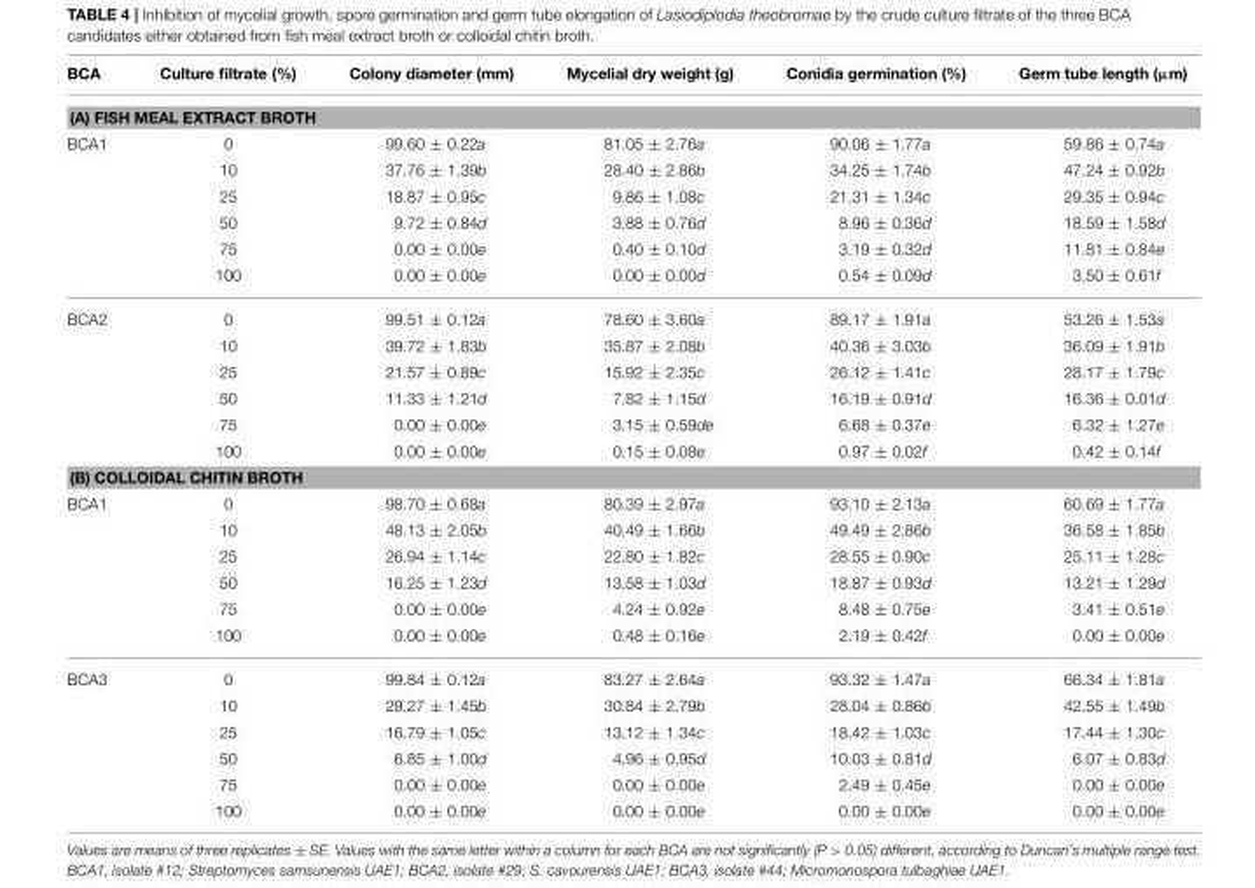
<table><thead><tr><td>BCA</td><td>Culture filtrate (%)</td><td>Colony diameter (mm)</td><td>Mycelial dry weight (g)</td><td>Conidia germination (%)</td><td>Germ tube length (µm)</td></tr></thead><tbody><tr><td colspan="6">(A) FISH MEAL EXTRACT BROTH</td></tr><tr><td rowspan="6">BCA1</td><td>0</td><td>99.60 ± 0.22a</td><td>81.05 ± 2.76a</td><td>90.06 ± 1.77a</td><td>59.86 ± 0.74a</td></tr><tr><td>10</td><td>37.76 ± 1.39b</td><td>28.40 ± 2.86b</td><td>34.25 ± 1.74b</td><td>47.24 ± 0.92b</td></tr><tr><td>25</td><td>18.87 ± 0.95c</td><td>9.86 ± 1.08c</td><td>21.31 ± 1.34c</td><td>29.35 ± 0.94c</td></tr><tr><td>50</td><td>9.72 ± 0.84d</td><td>3.88 ± 0.76d</td><td>8.96 ± 0.36d</td><td>18.59 ± 1.58d</td></tr><tr><td>75</td><td>0.00 ± 0.00e</td><td>0.40 ± 0.10d</td><td>3.19 ± 0.32d</td><td>11.81 ± 0.84e</td></tr><tr><td>100</td><td>0.00 ± 0.00e</td><td>0.00 ± 0.00d</td><td>0.54 ± 0.09d</td><td>3.50 ± 0.61f</td></tr><tr><td rowspan="6">BCA2</td><td>0</td><td>99.51 ± 0.12a</td><td>78.60 ± 3.60a</td><td>89.17 ± 1.91a</td><td>53.26 ± 1.53a</td></tr><tr><td>10</td><td>39.72 ± 1.83b</td><td>35.87 ± 2.08b</td><td>40.36 ± 3.03b</td><td>36.09 ± 1.91b</td></tr><tr><td>25</td><td>21.57 ± 0.89c</td><td>15.92 ± 2.35c</td><td>26.12 ± 1.41c</td><td>28.17 ± 1.79c</td></tr><tr><td>50</td><td>11.33 ± 1.21d</td><td>7.82 ± 1.15d</td><td>16.19 ± 0.91d</td><td>16.36 ± 0.01d</td></tr><tr><td>75</td><td>0.00 ± 0.00e</td><td>3.15 ± 0.59de</td><td>6.68 ± 0.37e</td><td>6.32 ± 1.27e</td></tr><tr><td>100</td><td>0.00 ± 0.00e</td><td>0.15 ± 0.08e</td><td>0.97 ± 0.02f</td><td>0.42 ± 0.14f</td></tr><tr><td colspan="6">(B) COLLOIDAL CHITIN BROTH</td></tr><tr><td rowspan="6">BCA1</td><td>0</td><td>98.70 ± 0.68a</td><td>80.39 ± 2.97a</td><td>93.10 ± 2.13a</td><td>60.69 ± 1.77a</td></tr><tr><td>10</td><td>48.13 ± 2.05b</td><td>40.49 ± 1.66b</td><td>49.49 ± 2.86b</td><td>36.58 ± 1.85b</td></tr><tr><td>25</td><td>26.94 ± 1.14c</td><td>22.80 ± 1.82c</td><td>28.55 ± 0.90c</td><td>25.11 ± 1.28c</td></tr><tr><td>50</td><td>16.25 ± 1.23d</td><td>13.58 ± 1.03d</td><td>18.87 ± 0.93d</td><td>13.21 ± 1.29d</td></tr><tr><td>75</td><td>0.00 ± 0.00e</td><td>4.24 ± 0.92e</td><td>8.48 ± 0.75e</td><td>3.41 ± 0.51e</td></tr><tr><td>100</td><td>0.00 ± 0.00e</td><td>0.48 ± 0.16e</td><td>2.19 ± 0.42f</td><td>0.00 ± 0.00e</td></tr><tr><td rowspan="6">BCA3</td><td>0</td><td>99.84 ± 0.12a</td><td>83.27 ± 2.64a</td><td>93.32 ± 1.47a</td><td>66.34 ± 1.81a</td></tr><tr><td>10</td><td>29.27 ± 1.45b</td><td>30.84 ± 2.79b</td><td>28.04 ± 0.86b</td><td>42.55 ± 1.49b</td></tr><tr><td>25</td><td>16.79 ± 1.05c</td><td>13.12 ± 1.34c</td><td>18.42 ± 1.03c</td><td>17.44 ± 1.30c</td></tr><tr><td>50</td><td>6.85 ± 1.00d</td><td>4.96 ± 0.95d</td><td>10.03 ± 0.81d</td><td>6.07 ± 0.83d</td></tr><tr><td>75</td><td>0.00 ± 0.00e</td><td>0.00 ± 0.00e</td><td>2.49 ± 0.45e</td><td>0.00 ± 0.00e</td></tr><tr><td>100</td><td>0.00 ± 0.00e</td><td>0.00 ± 0.00e</td><td>0.00 ± 0.00e</td><td>0.00 ± 0.00e</td></tr></tbody></table>